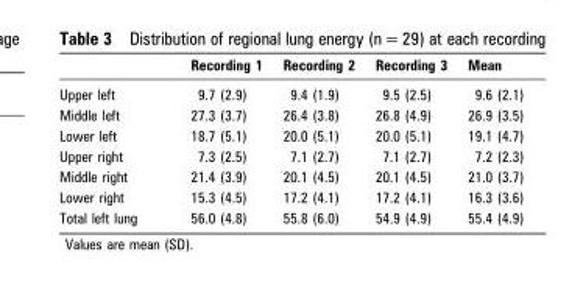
<table><thead><tr><td></td><td>Recording 1</td><td>Recording 2</td><td>Recording 3</td><td>Mean</td></tr></thead><tbody><tr><td>Upper left</td><td>9.7 (2.9)</td><td>9.4 (1.9)</td><td>9.5 (2.5)</td><td>9.6 (2.1)</td></tr><tr><td>Middle left</td><td>27.3 (3.7)</td><td>26.4 (3.8)</td><td>26.8 (4.9)</td><td>26.9 (3.5)</td></tr><tr><td>Lower left</td><td>18.7 (5.1)</td><td>20.0 (5.1)</td><td>20.0 (5.1)</td><td>19.1 (4.7)</td></tr><tr><td>Upper right</td><td>7.3 (2.5)</td><td>7.1 (2.7)</td><td>7.1 (2.7)</td><td>7.2 (2.3)</td></tr><tr><td>Middle right</td><td>21.4 (3.9)</td><td>20.1 (4.5)</td><td>20.1 (4.5)</td><td>21.0 (3.7)</td></tr><tr><td>Lower right</td><td>15.3 (4.5)</td><td>17.2 (4.1)</td><td>17.2 (4.1)</td><td>16.3 (3.6)</td></tr><tr><td>Total left lung</td><td>56.0 (4.8)</td><td>55.8 (6.0)</td><td>54.9 (4.9)</td><td>55.4 (4.9)</td></tr></tbody></table>